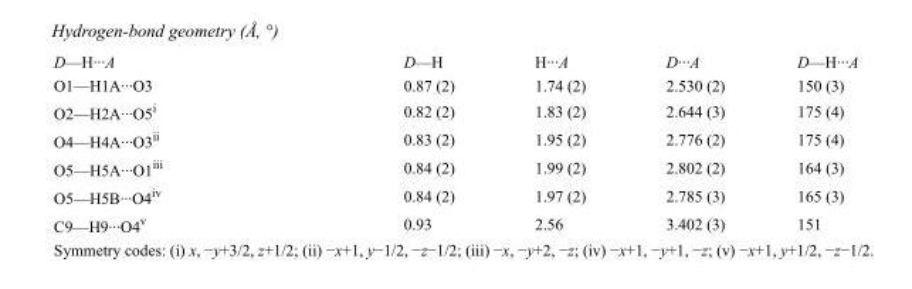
<table><tbody><tr><td>D—H···A</td><td>D—H</td><td>H···A</td><td>D···A</td><td>D—H···A</td></tr><tr><td>O1—H1A···O3</td><td>0.87 (2)</td><td>1.74 (2)</td><td>2.530 (2)</td><td>150 (3)</td></tr><tr><td>O2—H2A···O5<sup>i</sup></td><td>0.82 (2)</td><td>1.83 (2)</td><td>2.644 (3)</td><td>175 (4)</td></tr><tr><td>O4—H4A···O3<sup>ii</sup></td><td>0.83 (2)</td><td>1.95 (2)</td><td>2.776 (2)</td><td>175 (4)</td></tr><tr><td>O5—H5A···O1<sup>iii</sup></td><td>0.84 (2)</td><td>1.99 (2)</td><td>2.802 (2)</td><td>164 (3)</td></tr><tr><td>O5—H5B···O4<sup>iv</sup></td><td>0.84 (2)</td><td>1.97 (2)</td><td>2.785 (3)</td><td>165 (3)</td></tr><tr><td>C9—H9···O4<sup>v</sup></td><td>0.93</td><td>2.56</td><td>3.402 (3)</td><td>151</td></tr></tbody></table>